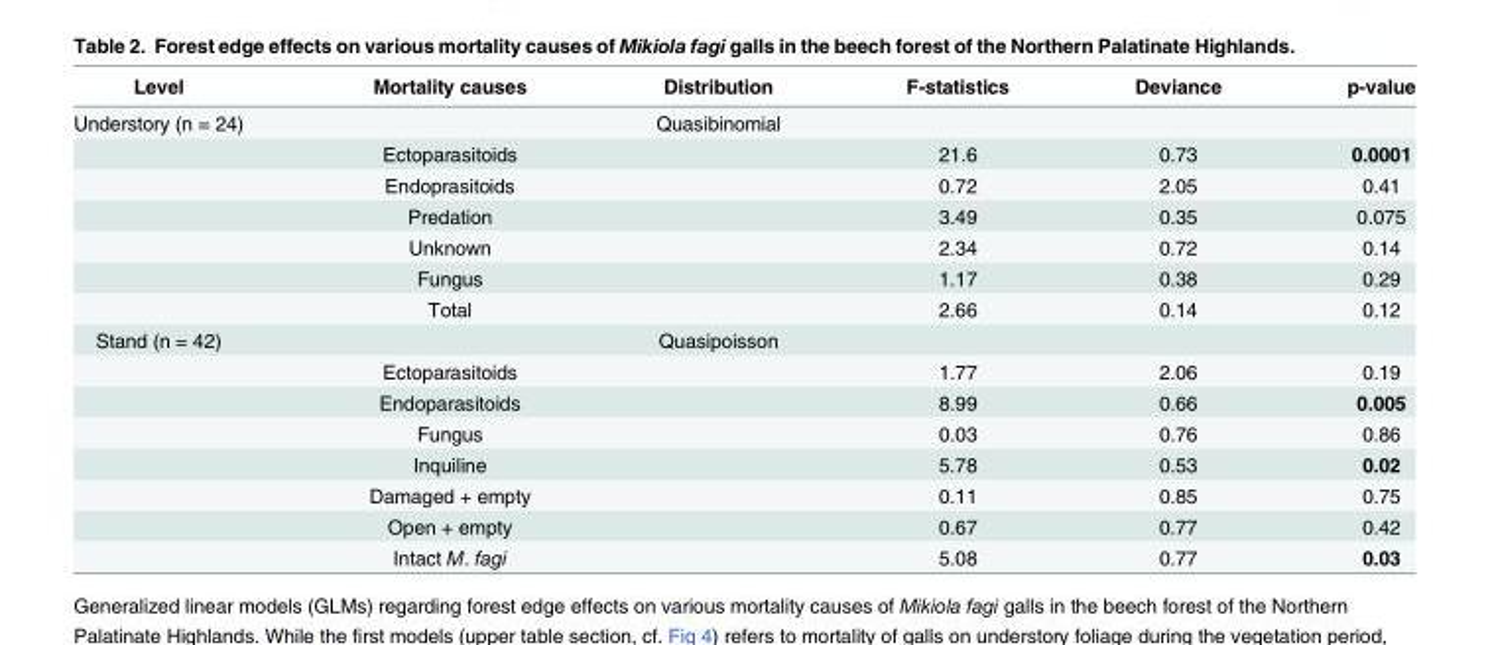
<table><thead><tr><td>Level</td><td>Mortality causes</td><td>Distribution</td><td>F-statistics</td><td>Deviance</td><td>p-value</td></tr></thead><tbody><tr><td rowspan="7">Understory (n = 24)</td><td></td><td>Quasibinomial</td><td></td><td></td><td></td></tr><tr><td>Ectoparasitoids</td><td></td><td>21.6</td><td>0.73</td><td>0.0001</td></tr><tr><td>Endoprasitoids</td><td></td><td>0.72</td><td>2.05</td><td>0.41</td></tr><tr><td>Predation</td><td></td><td>3.49</td><td>0.35</td><td>0.075</td></tr><tr><td>Unknown</td><td></td><td>2.34</td><td>0.72</td><td>0.14</td></tr><tr><td>Fungus</td><td></td><td>1.17</td><td>0.38</td><td>0.29</td></tr><tr><td>Total</td><td></td><td>2.66</td><td>0.14</td><td>0.12</td></tr><tr><td rowspan="8">Stand (n = 42)</td><td></td><td>Quasipoisson</td><td></td><td></td><td></td></tr><tr><td>Ectoparasitoids</td><td></td><td>1.77</td><td>2.06</td><td>0.19</td></tr><tr><td>Endoparasitoids</td><td></td><td>8.99</td><td>0.66</td><td>0.005</td></tr><tr><td>Fungus</td><td></td><td>0.03</td><td>0.76</td><td>0.86</td></tr><tr><td>Inquiline</td><td></td><td>5.78</td><td>0.53</td><td>0.02</td></tr><tr><td>Damaged + empty</td><td></td><td>0.11</td><td>0.85</td><td>0.75</td></tr><tr><td>Open + empty</td><td></td><td>0.67</td><td>0.77</td><td>0.42</td></tr><tr><td>Intact M. fagi</td><td></td><td>5.08</td><td>0.77</td><td>0.03</td></tr></tbody></table>